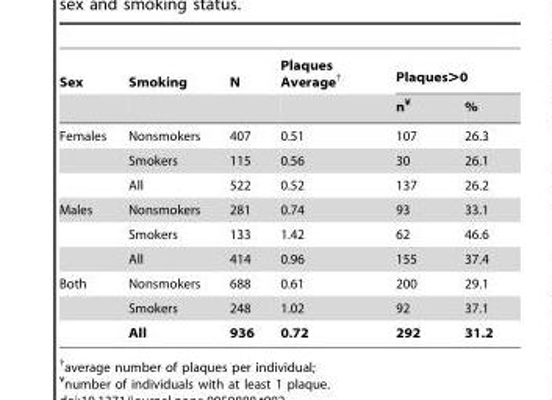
<table><thead><tr><td rowspan="2">Sex</td><td rowspan="2">Smoking</td><td rowspan="2">N</td><td rowspan="2">Plaques Average†</td><td colspan="2">Plaques&gt;0</td></tr><tr><td>n¥</td><td>%</td></tr></thead><tbody><tr><td rowspan="3">Females</td><td>Nonsmokers</td><td>407</td><td>0.51</td><td>107</td><td>26.3</td></tr><tr><td>Smokers</td><td>115</td><td>0.56</td><td>30</td><td>26.1</td></tr><tr><td>All</td><td>522</td><td>0.52</td><td>137</td><td>26.2</td></tr><tr><td rowspan="3">Males</td><td>Nonsmokers</td><td>281</td><td>0.74</td><td>93</td><td>33.1</td></tr><tr><td>Smokers</td><td>133</td><td>1.42</td><td>62</td><td>46.6</td></tr><tr><td>All</td><td>414</td><td>0.96</td><td>155</td><td>37.4</td></tr><tr><td rowspan="3">Both</td><td>Nonsmokers</td><td>688</td><td>0.61</td><td>200</td><td>29.1</td></tr><tr><td>Smokers</td><td>248</td><td>1.02</td><td>92</td><td>37.1</td></tr><tr><td>All</td><td>936</td><td>0.72</td><td>292</td><td>31.2</td></tr></tbody></table>